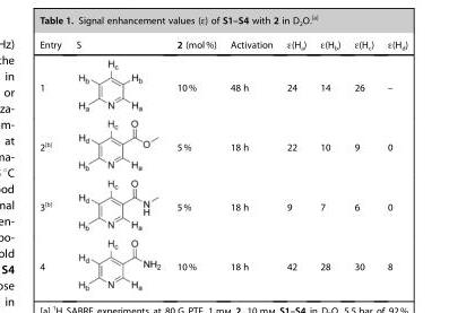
<table><thead><tr><td>Entry</td><td>S</td><td>2 (mol%)</td><td>Activation</td><td>e(Ha)</td><td>e(Hb)</td><td>e(Hc)</td><td>e(Hd)</td></tr></thead><tbody><tr><td>1</td><td></td><td>10%</td><td>48 h</td><td>24</td><td>14</td><td>26</td><td>–</td></tr><tr><td>2<sup>[b]</sup></td><td></td><td>5%</td><td>18 h</td><td>22</td><td>10</td><td>9</td><td>0</td></tr><tr><td>3<sup>[b]</sup></td><td></td><td>5%</td><td>18 h</td><td>9</td><td>7</td><td>6</td><td>0</td></tr><tr><td>4</td><td></td><td>10%</td><td>18 h</td><td>42</td><td>28</td><td>30</td><td>8</td></tr></tbody></table>